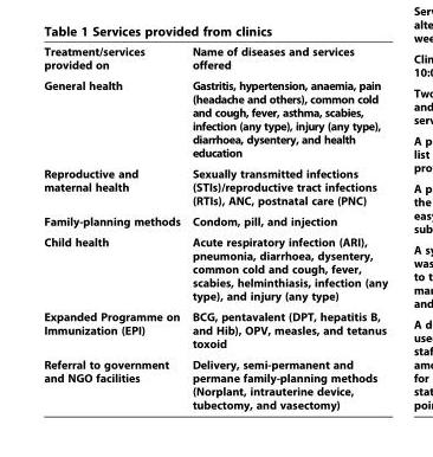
<table><tbody><tr><td>Treatment/services provided on</td><td>Name of diseases and services offered</td></tr><tr><td>General health</td><td>Gastritis, hypertension, anaemia, pain (headache and others), common cold and cough, fever, asthma, scabies, infection (any type), injury (any type), diarrhoea, dysentery, and health education</td></tr><tr><td>Reproductive and maternal health</td><td>Sexually transmitted infections (STIs)/reproductive tract infections (RTIs), ANC, postnatal care (PNC)</td></tr><tr><td>Family-planning methods</td><td>Condom, pill, and injection</td></tr><tr><td>Child health</td><td>Acute respiratory infection (ARI), pneumonia, diarrhoea, dysentery, common cold and cough, fever, scabies, helminthiasis, infection (any type), and injury (any type)</td></tr><tr><td>Expanded Programme on Immunization (EPI)</td><td>BCG, pentavalent (DPT, hepatitis B, and Hib), OPV, measles, and tetanus toxoid</td></tr><tr><td>Referral to government and NGO facilities</td><td>Delivery, semi-permanent and permane family-planning methods (Norplant, intrauterine device, tubectomy, and vasectomy)</td></tr></tbody></table>